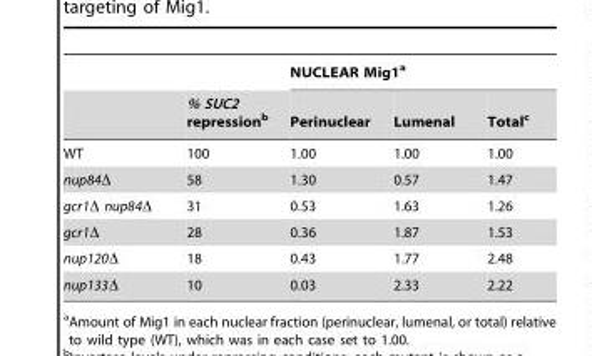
<table><thead><tr><td rowspan="2"></td><td rowspan="2">% SUC2 repression<sup>b</sup></td><td colspan="3">NUCLEAR Mig1<sup>a</sup></td></tr><tr><td>Perinuclear</td><td>Lumenal</td><td>Total<sup>c</sup></td></tr></thead><tbody><tr><td>WT</td><td>100</td><td>1.00</td><td>1.00</td><td>1.00</td></tr><tr><td>nup84Δ</td><td>58</td><td>1.30</td><td>0.57</td><td>1.47</td></tr><tr><td>gcr1Δ nup84Δ</td><td>31</td><td>0.53</td><td>1.63</td><td>1.26</td></tr><tr><td>gcr1Δ</td><td>28</td><td>0.36</td><td>1.87</td><td>1.53</td></tr><tr><td>nup120Δ</td><td>18</td><td>0.43</td><td>1.77</td><td>2.48</td></tr><tr><td>nup133Δ</td><td>10</td><td>0.03</td><td>2.33</td><td>2.22</td></tr></tbody></table>